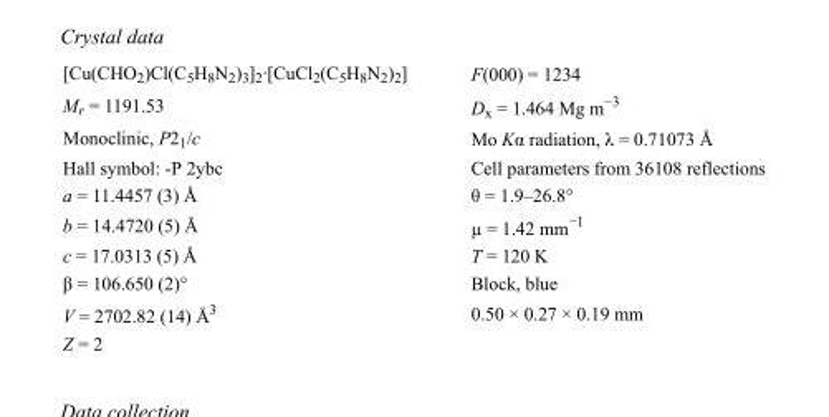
<table><tbody><tr><td>[Cu(CHO<sub>2</sub>)Cl(C<sub>5</sub>H<sub>8</sub>N<sub>2</sub>)<sub>3</sub>]<sub>2</sub>·[CuCl<sub>2</sub>(C<sub>5</sub>H<sub>8</sub>N<sub>2</sub>)<sub>2</sub>]</td><td>F(000) = 1234</td></tr><tr><td>M<sub>r</sub> = 1191.53</td><td>D<sub>x</sub> = 1.464 Mg m<sup>−3</sup></td></tr><tr><td>Monoclinic, P2<sub>1</sub>/c</td><td>Mo Kα radiation, λ = 0.71073 Å</td></tr><tr><td>Hall symbol: -P 2ybc</td><td>Cell parameters from 36108 reflections</td></tr><tr><td>a = 11.4457 (3) Å</td><td>θ = 1.9–26.8°</td></tr><tr><td>b = 14.4720 (5) Å</td><td>µ = 1.42 mm<sup>−1</sup></td></tr><tr><td>c = 17.0313 (5) Å</td><td>T = 120 K</td></tr><tr><td>β = 106.650 (2)°</td><td>Block, blue</td></tr><tr><td>V = 2702.82 (14) Å<sup>3</sup></td><td>0.50 × 0.27 × 0.19 mm</td></tr><tr><td>Z = 2</td><td></td></tr></tbody></table>